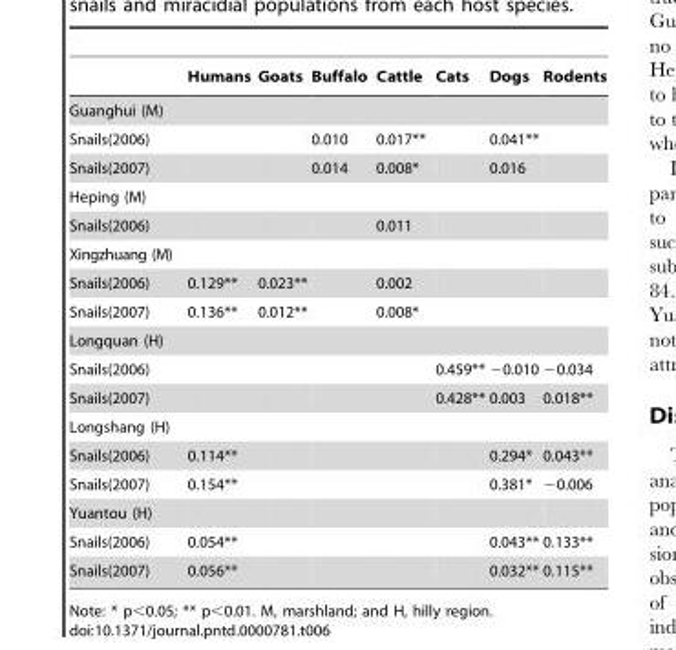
<table><thead><tr><td></td><td>Humans</td><td>Goats</td><td>Buffalo</td><td>Cattle</td><td>Cats</td><td>Dogs</td><td>Rodents</td></tr></thead><tbody><tr><td colspan="8">Guanghui (M)</td></tr><tr><td>Snails(2006)</td><td></td><td></td><td>0.010</td><td>0.017**</td><td></td><td>0.041**</td><td></td></tr><tr><td>Snails(2007)</td><td></td><td></td><td>0.014</td><td>0.008*</td><td></td><td>0.016</td><td></td></tr><tr><td colspan="8">Heping (M)</td></tr><tr><td>Snails(2006)</td><td></td><td></td><td></td><td>0.011</td><td></td><td></td><td></td></tr><tr><td colspan="8">Xingzhuang (M)</td></tr><tr><td>Snails(2006)</td><td>0.129**</td><td>0.023**</td><td></td><td>0.002</td><td></td><td></td><td></td></tr><tr><td>Snails(2007)</td><td>0.136**</td><td>0.012**</td><td></td><td>0.008*</td><td></td><td></td><td></td></tr><tr><td colspan="8">Longquan (H)</td></tr><tr><td>Snails(2006)</td><td></td><td></td><td></td><td></td><td>0.459**</td><td>−0.010</td><td>−0.034</td></tr><tr><td>Snails(2007)</td><td></td><td></td><td></td><td></td><td>0.428**</td><td>0.003</td><td>0.018**</td></tr><tr><td colspan="8">Longshang (H)</td></tr><tr><td>Snails(2006)</td><td>0.114**</td><td></td><td></td><td></td><td></td><td>0.294*</td><td>0.043**</td></tr><tr><td>Snails(2007)</td><td>0.154**</td><td></td><td></td><td></td><td></td><td>0.381*</td><td>−0.006</td></tr><tr><td colspan="8">Yuantou (H)</td></tr><tr><td>Snails(2006)</td><td>0.054**</td><td></td><td></td><td></td><td></td><td>0.043**</td><td>0.133**</td></tr><tr><td>Snails(2007)</td><td>0.056**</td><td></td><td></td><td></td><td></td><td>0.032**</td><td>0.115**</td></tr></tbody></table>